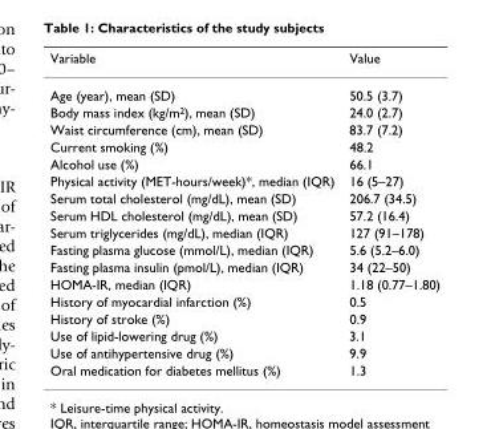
<table><thead><tr><td>Variable</td><td>Value</td></tr></thead><tbody><tr><td>Age (year), mean (SD)</td><td>50.5 (3.7)</td></tr><tr><td>Body mass index (kg/m<sup>2</sup>), mean (SD)</td><td>24.0 (2.7)</td></tr><tr><td>Waist circumference (cm), mean (SD)</td><td>83.7 (7.2)</td></tr><tr><td>Current smoking (%)</td><td>48.2</td></tr><tr><td>Alcohol use (%)</td><td>66.1</td></tr><tr><td>Physical activity (MET-hours/week)*, median (IQR)</td><td>16 (5–27)</td></tr><tr><td>Serum total cholesterol (mg/dL), mean (SD)</td><td>206.7 (34.5)</td></tr><tr><td>Serum HDL cholesterol (mg/dL), mean (SD)</td><td>57.2 (16.4)</td></tr><tr><td>Serum triglycerides (mg/dL), median (IQR)</td><td>127 (91–178)</td></tr><tr><td>Fasting plasma glucose (mmol/L), median (IQR)</td><td>5.6 (5.2–6.0)</td></tr><tr><td>Fasting plasma insulin (pmol/L), median (IQR)</td><td>34 (22–50)</td></tr><tr><td>HOMA-IR, median (IQR)</td><td>1.18 (0.77–1.80)</td></tr><tr><td>History of myocardial infarction (%)</td><td>0.5</td></tr><tr><td>History of stroke (%)</td><td>0.9</td></tr><tr><td>Use of lipid-lowering drug (%)</td><td>3.1</td></tr><tr><td>Use of antihypertensive drug (%)</td><td>9.9</td></tr><tr><td>Oral medication for diabetes mellitus (%)</td><td>1.3</td></tr></tbody></table>